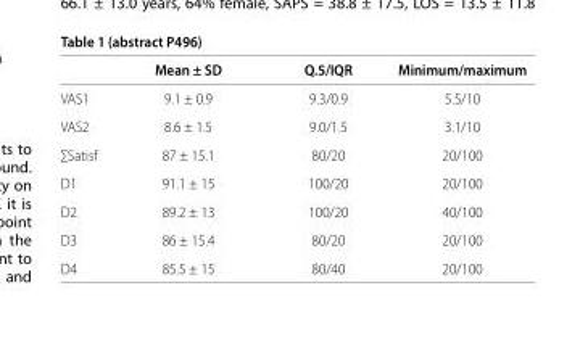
<table><thead><tr><td></td><td>Mean ± SD</td><td>Q.5/IQR</td><td>Minimum/maximum</td></tr></thead><tbody><tr><td>VAS1</td><td>9.1 ± 0.9</td><td>9.3/0.9</td><td>5.5/10</td></tr><tr><td>VAS2</td><td>8.6 ± 1.5</td><td>9.0/1.5</td><td>3.1/10</td></tr><tr><td>∑Satisf</td><td>87 ± 15.1</td><td>80/20</td><td>20/100</td></tr><tr><td>D1</td><td>91.1 ± 15</td><td>100/20</td><td>20/100</td></tr><tr><td>D2</td><td>89.2 ± 13</td><td>100/20</td><td>40/100</td></tr><tr><td>D3</td><td>86 ± 15.4</td><td>80/20</td><td>20/100</td></tr><tr><td>D4</td><td>85.5 ± 15</td><td>80/40</td><td>20/100</td></tr></tbody></table>